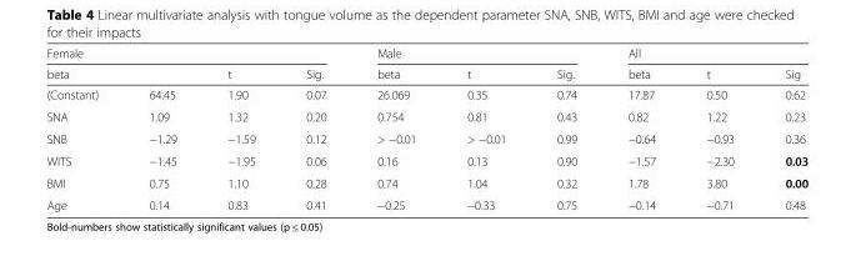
<table><thead><tr><td colspan="4">Female</td><td colspan="3">Male</td><td colspan="3">All</td></tr><tr><td colspan="2">beta</td><td rowspan="2">t 1.90</td><td rowspan="2">Sig. 0.07</td><td rowspan="2">beta 26.069</td><td rowspan="2">t 0.35</td><td rowspan="2">Sig. 0.74</td><td rowspan="2">beta 17.87</td><td rowspan="2">t 0.50</td><td rowspan="2">Sig 0.62</td></tr><tr><td>(Constant)</td><td>64.45</td></tr></thead><tbody><tr><td>SNA</td><td>1.09</td><td>1.32</td><td>0.20</td><td>0.754</td><td>0.81</td><td>0.43</td><td>0.82</td><td>1.22</td><td>0.23</td></tr><tr><td>SNB</td><td>−1.29</td><td>−1.59</td><td>0.12</td><td>&gt; −0.01</td><td>&gt; −0.01</td><td>0.99</td><td>−0.64</td><td>−0.93</td><td>0.36</td></tr><tr><td>WITS</td><td>−1.45</td><td>−1.95</td><td>0.06</td><td>0.16</td><td>0.13</td><td>0.90</td><td>−1.57</td><td>−2.30</td><td>0.03</td></tr><tr><td>BMI</td><td>0.75</td><td>1.10</td><td>0.28</td><td>0.74</td><td>1.04</td><td>0.32</td><td>1.78</td><td>3.80</td><td>0.00</td></tr><tr><td>Age</td><td>0.14</td><td>0.83</td><td>0.41</td><td>−0.25</td><td>−0.33</td><td>0.75</td><td>−0.14</td><td>−0.71</td><td>0.48</td></tr></tbody></table>